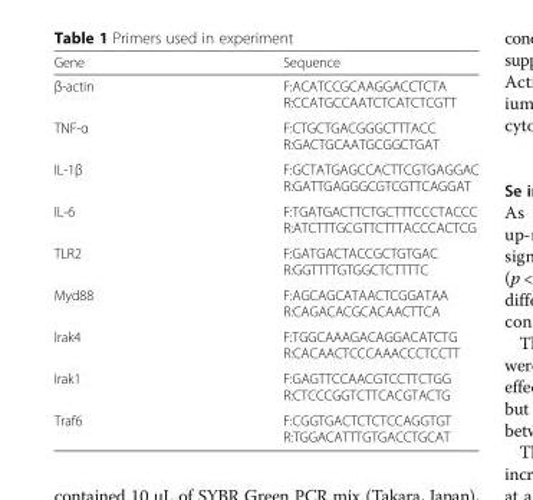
<table><thead><tr><td>Gene</td><td>Sequence</td></tr></thead><tbody><tr><td>β-actin</td><td>F:ACATCCGCAAGGACCTCTA R:CCATGCCAATCTCATCTCGTT</td></tr><tr><td>TNF-α</td><td>F:CTGCTGACGGGCTTTACC R:GACTGCAATGCGGCTGAT</td></tr><tr><td>IL-1β</td><td>F:GCTATGAGCCACTTCGTGAGGAC R:GATTGAGGGCGTCGTTCAGGAT</td></tr><tr><td>IL-6</td><td>F:TGATGACTTCTGCTTTCCCTACCC R:ATCTTTGCGTTCTTTACCCACTCG</td></tr><tr><td>TLR2</td><td>F:GATGACTACCGCTGTGAC R:GGTTTTGTGGCTCTTTTC</td></tr><tr><td>Myd88</td><td>F:AGCAGCATAACTCGGATAA R:CAGACACGCACAACTTCA</td></tr><tr><td>Irak4</td><td>F:TGGCAAAGACAGGACATCTG R:CACAACTCCCAAACCCTCCTT</td></tr><tr><td>Irak1</td><td>F:GAGTTCCAACGTCCTTCTGG R:CTCCCGGTCTTCACGTACTG</td></tr><tr><td>Traf6</td><td>F:CGGTGACTCTCTCCAGGTGT R:TGGACATTTGTGACCTGCAT</td></tr></tbody></table>